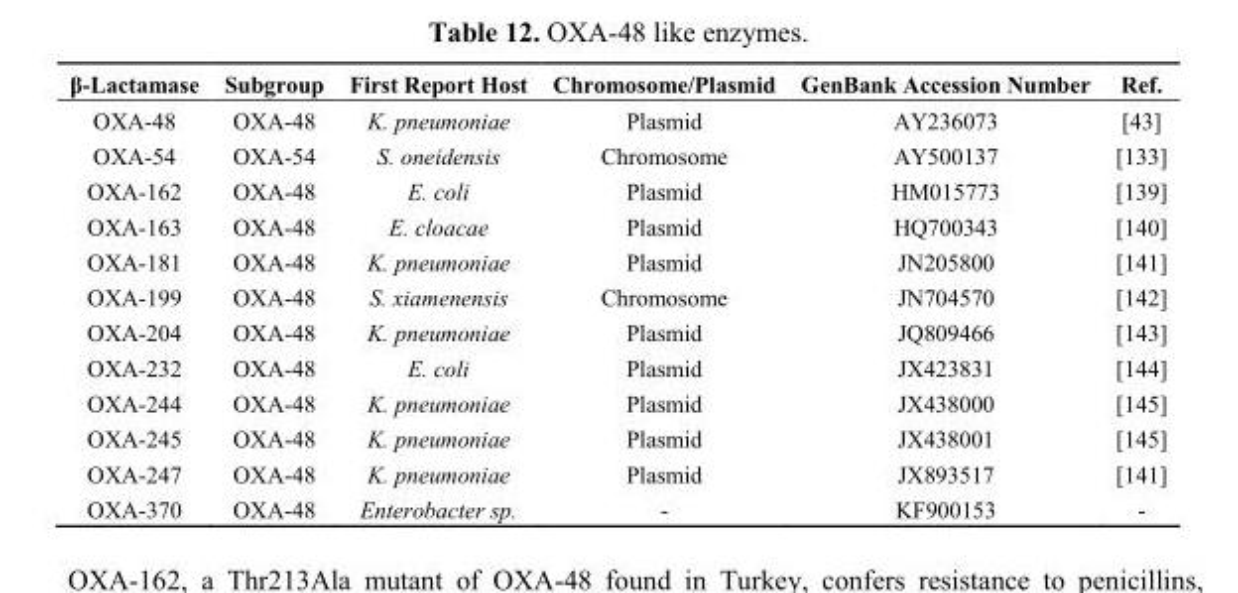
<table><thead><tr><td>β-Lactamase</td><td>Subgroup</td><td>First Report Host</td><td>Chromosome/Plasmid</td><td>GenBank Accession Number</td><td>Ref.</td></tr></thead><tbody><tr><td>OXA-48</td><td>OXA-48</td><td>K. pneumoniae</td><td>Plasmid</td><td>AY236073</td><td>[43]</td></tr><tr><td>OXA-54</td><td>OXA-54</td><td>S. oneidensis</td><td>Chromosome</td><td>AY500137</td><td>[133]</td></tr><tr><td>OXA-162</td><td>OXA-48</td><td>E. coli</td><td>Plasmid</td><td>HM015773</td><td>[139]</td></tr><tr><td>OXA-163</td><td>OXA-48</td><td>E. cloacae</td><td>Plasmid</td><td>HQ700343</td><td>[140]</td></tr><tr><td>OXA-181</td><td>OXA-48</td><td>K. pneumoniae</td><td>Plasmid</td><td>JN205800</td><td>[141]</td></tr><tr><td>OXA-199</td><td>OXA-48</td><td>S. xiamenensis</td><td>Chromosome</td><td>JN704570</td><td>[142]</td></tr><tr><td>OXA-204</td><td>OXA-48</td><td>K. pneumoniae</td><td>Plasmid</td><td>JQ809466</td><td>[143]</td></tr><tr><td>OXA-232</td><td>OXA-48</td><td>E. coli</td><td>Plasmid</td><td>JX423831</td><td>[144]</td></tr><tr><td>OXA-244</td><td>OXA-48</td><td>K. pneumoniae</td><td>Plasmid</td><td>JX438000</td><td>[145]</td></tr><tr><td>OXA-245</td><td>OXA-48</td><td>K. pneumoniae</td><td>Plasmid</td><td>JX438001</td><td>[145]</td></tr><tr><td>OXA-247</td><td>OXA-48</td><td>K. pneumoniae</td><td>Plasmid</td><td>JX893517</td><td>[141]</td></tr><tr><td>OXA-370</td><td>OXA-48</td><td>Enterobacter sp.</td><td>-</td><td>KF900153</td><td>-</td></tr></tbody></table>